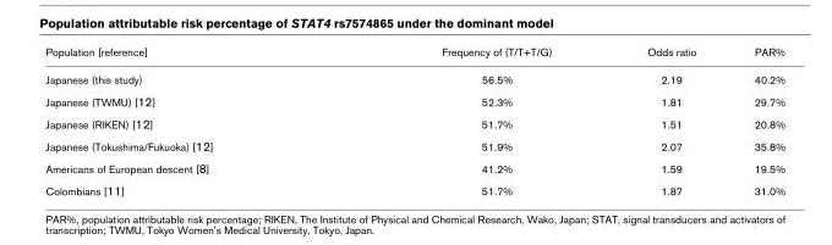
<table><thead><tr><td>Population [reference]</td><td>Frequency of (T/T+T/G)</td><td>Odds ratio</td><td>PAR%</td></tr></thead><tbody><tr><td>Japanese (this study)</td><td>56.5%</td><td>2.19</td><td>40.2%</td></tr><tr><td>Japanese (TWMU) [12]</td><td>52.3%</td><td>1.81</td><td>29.7%</td></tr><tr><td>Japanese (RIKEN) [12]</td><td>51.7%</td><td>1.51</td><td>20.8%</td></tr><tr><td>Japanese (Tokushima/Fukuoka) [12]</td><td>51.9%</td><td>2.07</td><td>35.8%</td></tr><tr><td>Americans of European descent [8]</td><td>41.2%</td><td>1.59</td><td>19.5%</td></tr><tr><td>Colombians [11]</td><td>51.7%</td><td>1.87</td><td>31.0%</td></tr></tbody></table>